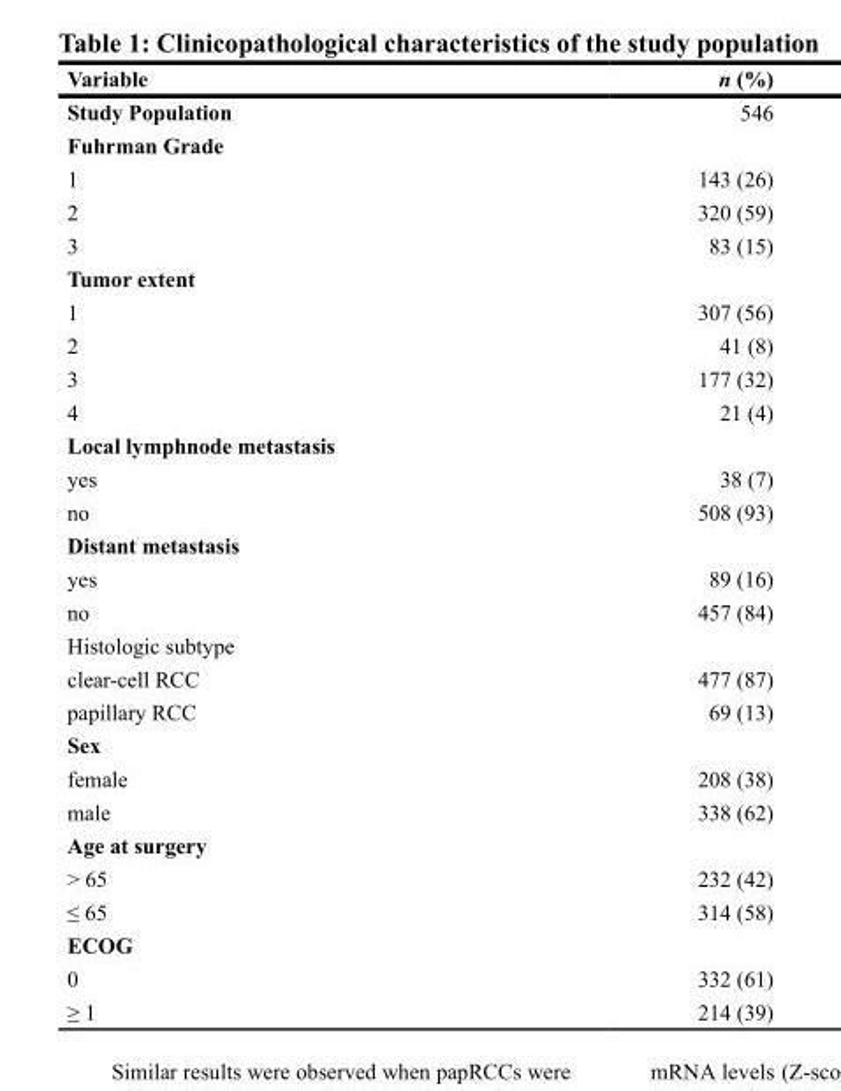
<table><thead><tr><td>Variable</td><td>n (%)</td></tr></thead><tbody><tr><td>Study Population</td><td>546</td></tr><tr><td colspan="2">Fuhrman Grade</td></tr><tr><td>1</td><td>143 (26)</td></tr><tr><td>2</td><td>320 (59)</td></tr><tr><td>3</td><td>83 (15)</td></tr><tr><td colspan="2">Tumor extent</td></tr><tr><td>1</td><td>307 (56)</td></tr><tr><td>2</td><td>41 (8)</td></tr><tr><td>3</td><td>177 (32)</td></tr><tr><td>4</td><td>21 (4)</td></tr><tr><td colspan="2">Local lymphnode metastasis</td></tr><tr><td>yes</td><td>38 (7)</td></tr><tr><td>no</td><td>508 (93)</td></tr><tr><td colspan="2">Distant metastasis</td></tr><tr><td>yes</td><td>89 (16)</td></tr><tr><td>no</td><td>457 (84)</td></tr><tr><td colspan="2">Histologic subtype</td></tr><tr><td>clear-cell RCC</td><td>477 (87)</td></tr><tr><td>papillary RCC</td><td>69 (13)</td></tr><tr><td colspan="2">Sex</td></tr><tr><td>female</td><td>208 (38)</td></tr><tr><td>male</td><td>338 (62)</td></tr><tr><td colspan="2">Age at surgery</td></tr><tr><td>&gt; 65</td><td>232 (42)</td></tr><tr><td>≤ 65</td><td>314 (58)</td></tr><tr><td colspan="2">ECOG</td></tr><tr><td>0</td><td>332 (61)</td></tr><tr><td>≥ 1</td><td>214 (39)</td></tr></tbody></table>